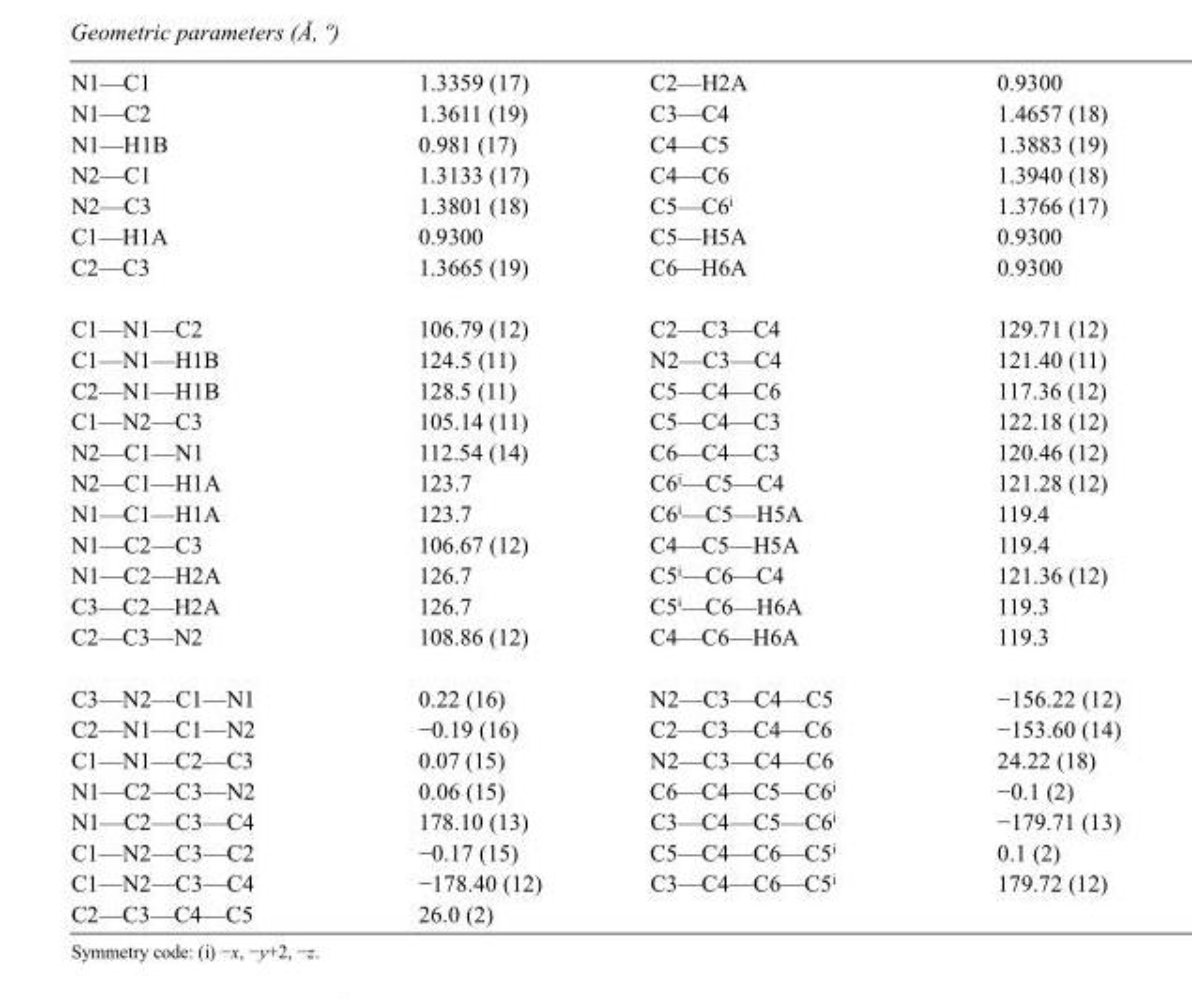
<table><tbody><tr><td>N1—C1</td><td>1.3359 (17)</td><td>C2—H2A</td><td>0.9300</td></tr><tr><td>N1—C2</td><td>1.3611 (19)</td><td>C3—C4</td><td>1.4657 (18)</td></tr><tr><td>N1—H1B</td><td>0.981 (17)</td><td>C4—C5</td><td>1.3883 (19)</td></tr><tr><td>N2—C1</td><td>1.3133 (17)</td><td>C4—C6</td><td>1.3940 (18)</td></tr><tr><td>N2—C3</td><td>1.3801 (18)</td><td>C5—C6<sup>i</sup></td><td>1.3766 (17)</td></tr><tr><td>C1—H1A</td><td>0.9300</td><td>C5—H5A</td><td>0.9300</td></tr><tr><td>C2—C3</td><td>1.3665 (19)</td><td>C6—H6A</td><td>0.9300</td></tr><tr><td>C1—N1—C2</td><td>106.79 (12)</td><td>C2—C3—C4</td><td>129.71 (12)</td></tr><tr><td>C1—N1—H1B</td><td>124.5 (11)</td><td>N2—C3—C4</td><td>121.40 (11)</td></tr><tr><td>C2—N1—H1B</td><td>128.5 (11)</td><td>C5—C4—C6</td><td>117.36 (12)</td></tr><tr><td>C1—N2—C3</td><td>105.14 (11)</td><td>C5—C4—C3</td><td>122.18 (12)</td></tr><tr><td>N2—C1—N1</td><td>112.54 (14)</td><td>C6—C4—C3</td><td>120.46 (12)</td></tr><tr><td>N2—C1—H1A</td><td>123.7</td><td>C6<sup>i</sup>—C5—C4</td><td>121.28 (12)</td></tr><tr><td>N1—C1—H1A</td><td>123.7</td><td>C6<sup>i</sup>—C5—H5A</td><td>119.4</td></tr><tr><td>N1—C2—C3</td><td>106.67 (12)</td><td>C4—C5—H5A</td><td>119.4</td></tr><tr><td>N1—C2—H2A</td><td>126.7</td><td>C5<sup>i</sup>—C6—C4</td><td>121.36 (12)</td></tr><tr><td>C3—C2—H2A</td><td>126.7</td><td>C5<sup>i</sup>—C6—H6A</td><td>119.3</td></tr><tr><td>C2—C3—N2</td><td>108.86 (12)</td><td>C4—C6—H6A</td><td>119.3</td></tr><tr><td>C3—N2—C1—N1</td><td>0.22 (16)</td><td>N2—C3—C4—C5</td><td>−156.22 (12)</td></tr><tr><td>C2—N1—C1—N2</td><td>−0.19 (16)</td><td>C2—C3—C4—C6</td><td>−153.60 (14)</td></tr><tr><td>C1—N1—C2—C3</td><td>0.07 (15)</td><td>N2—C3—C4—C6</td><td>24.22 (18)</td></tr><tr><td>N1—C2—C3—N2</td><td>0.06 (15)</td><td>C6—C4—C5—C6<sup>i</sup></td><td>−0.1 (2)</td></tr><tr><td>N1—C2—C3—C4</td><td>178.10 (13)</td><td>C3—C4—C5—C6<sup>i</sup></td><td>−179.71 (13)</td></tr><tr><td>C1—N2—C3—C2</td><td>−0.17 (15)</td><td>C5—C4—C6—C5<sup>i</sup></td><td>0.1 (2)</td></tr><tr><td>C1—N2—C3—C4</td><td>−178.40 (12)</td><td>C3—C4—C6—C5<sup>i</sup></td><td>179.72 (12)</td></tr><tr><td>C2—C3—C4—C5</td><td>26.0 (2)</td><td></td><td></td></tr></tbody></table>